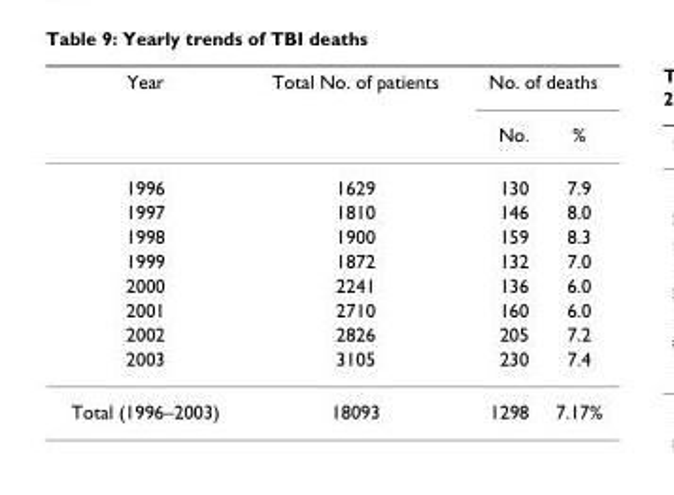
<table><thead><tr><td rowspan="2">Year</td><td rowspan="2">Total No. of patients</td><td colspan="2">No. of deaths</td></tr><tr><td>No.</td><td>%</td></tr></thead><tbody><tr><td>1996</td><td>1629</td><td>130</td><td>7.9</td></tr><tr><td>1997</td><td>1810</td><td>146</td><td>8.0</td></tr><tr><td>1998</td><td>1900</td><td>159</td><td>8.3</td></tr><tr><td>1999</td><td>1872</td><td>132</td><td>7.0</td></tr><tr><td>2000</td><td>2241</td><td>136</td><td>6.0</td></tr><tr><td>2001</td><td>2710</td><td>160</td><td>6.0</td></tr><tr><td>2002</td><td>2826</td><td>205</td><td>7.2</td></tr><tr><td>2003</td><td>3105</td><td>230</td><td>7.4</td></tr><tr><td>Total (1996–2003)</td><td>18093</td><td>1298</td><td>7.17%</td></tr></tbody></table>